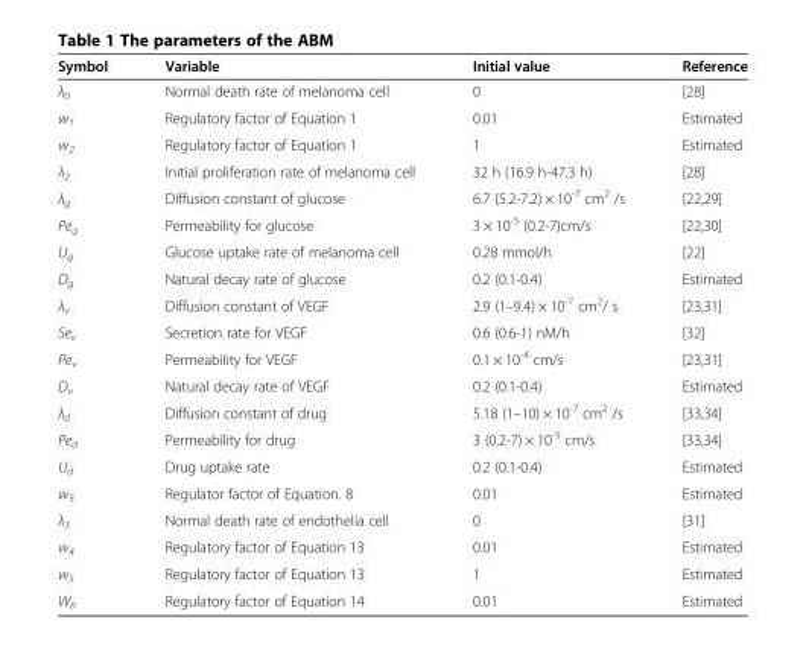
<table><thead><tr><td>Symbol</td><td>Variable</td><td>Initial value</td><td>Reference</td></tr></thead><tbody><tr><td>λ<sub>0</sub></td><td>Normal death rate of melanoma cell</td><td>0</td><td>[28]</td></tr><tr><td>w<sub>1</sub></td><td>Regulatory factor of Equation 1</td><td>0.01</td><td>Estimated</td></tr><tr><td>w<sub>2</sub></td><td>Regulatory factor of Equation 1</td><td>1</td><td>Estimated</td></tr><tr><td>λ<sub>2</sub></td><td>Initial proliferation rate of melanoma cell</td><td>32 h (16.9 h-47.3 h)</td><td>[28]</td></tr><tr><td>λ<sub>g</sub></td><td>Diffusion constant of glucose</td><td>6.7 (5.2-7.2) × 10<sup>-7</sup> cm<sup>2</sup> /s</td><td>[22,29]</td></tr><tr><td>Pe<sub>g</sub></td><td>Permeability for glucose</td><td>3 × 10<sup>-5</sup> (0.2-7)cm/s</td><td>[22,30]</td></tr><tr><td>U<sub>g</sub></td><td>Glucose uptake rate of melanoma cell</td><td>0.28 mmol/h</td><td>[22]</td></tr><tr><td>D<sub>g</sub></td><td>Natural decay rate of glucose</td><td>0.2 (0.1-0.4)</td><td>Estimated</td></tr><tr><td>λ<sub>v</sub></td><td>Diffusion constant of VEGF</td><td>2.9 (1–9.4) × 10<sup>-7</sup> cm<sup>2</sup>/ s</td><td>[23,31]</td></tr><tr><td>Se<sub>v</sub></td><td>Secretion rate for VEGF</td><td>0.6 (0.6-1) nM/h</td><td>[32]</td></tr><tr><td>Pe<sub>v</sub></td><td>Permeability for VEGF</td><td>0.1 × 10<sup>-4</sup> cm/s</td><td>[23,31]</td></tr><tr><td>D<sub>v</sub></td><td>Natural decay rate of VEGF</td><td>0.2 (0.1-0.4)</td><td>Estimated</td></tr><tr><td>λ<sub>d</sub></td><td>Diffusion constant of drug</td><td>5.18 (1–10) × 10<sup>-7</sup> cm<sup>2</sup> /s</td><td>[33,34]</td></tr><tr><td>Pe<sub>d</sub></td><td>Permeability for drug</td><td>3 (0.2-7) × 10<sup>-5</sup> cm/s</td><td>[33,34]</td></tr><tr><td>U<sub>d</sub></td><td>Drug uptake rate</td><td>0.2 (0.1-0.4)</td><td>Estimated</td></tr><tr><td>w<sub>3</sub></td><td>Regulator factor of Equation. 8</td><td>0.01</td><td>Estimated</td></tr><tr><td>λ<sub>3</sub></td><td>Normal death rate of endothelia cell</td><td>0</td><td>[31]</td></tr><tr><td>w<sub>4</sub></td><td>Regulatory factor of Equation 13</td><td>0.01</td><td>Estimated</td></tr><tr><td>w<sub>5</sub></td><td>Regulatory factor of Equation 13</td><td>1</td><td>Estimated</td></tr><tr><td>W<sub>6</sub></td><td>Regulatory factor of Equation 14</td><td>0.01</td><td>Estimated</td></tr></tbody></table>